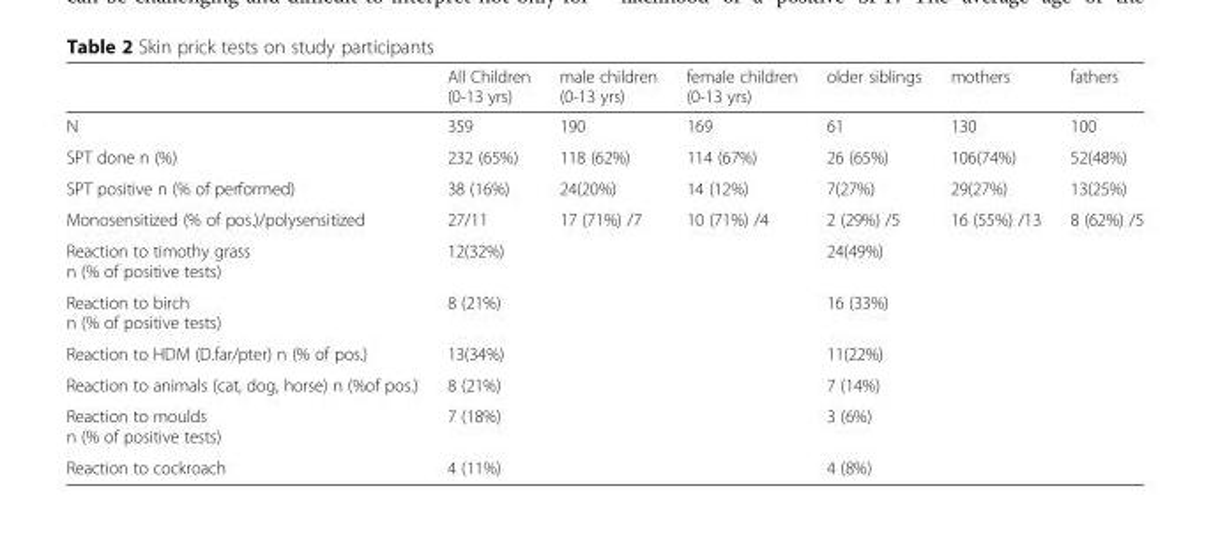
<table><thead><tr><td></td><td>All Children (0-13 yrs)</td><td>male children (0-13 yrs)</td><td>female children (0-13 yrs)</td><td>older siblings</td><td>mothers</td><td>fathers</td></tr></thead><tbody><tr><td>N</td><td>359</td><td>190</td><td>169</td><td>61</td><td>130</td><td>100</td></tr><tr><td>SPT done n (%)</td><td>232 (65%)</td><td>118 (62%)</td><td>114 (67%)</td><td>26 (65%)</td><td>106(74%)</td><td>52(48%)</td></tr><tr><td>SPT positive n (% of performed)</td><td>38 (16%)</td><td>24(20%)</td><td>14 (12%)</td><td>7(27%)</td><td>29(27%)</td><td>13(25%)</td></tr><tr><td>Monosensitized (% of pos.)/polysensitized</td><td>27/11</td><td>17 (71%) /7</td><td>10 (71%) /4</td><td>2 (29%) /5</td><td>16 (55%) /13</td><td>8 (62%) /5</td></tr><tr><td>Reaction to timothy grass n (% of positive tests)</td><td colspan="3">12(32%)</td><td colspan="3">24(49%)</td></tr><tr><td>Reaction to birch n (% of positive tests)</td><td colspan="3">8 (21%)</td><td colspan="3">16 (33%)</td></tr><tr><td>Reaction to HDM (D.far/pter) n (% of pos.)</td><td colspan="3">13(34%)</td><td colspan="3">11(22%)</td></tr><tr><td>Reaction to animals (cat, dog, horse) n (%of pos.)</td><td colspan="3">8 (21%)</td><td colspan="3">7 (14%)</td></tr><tr><td>Reaction to moulds n (% of positive tests)</td><td colspan="3">7 (18%)</td><td colspan="3">3 (6%)</td></tr><tr><td>Reaction to cockroach</td><td colspan="3">4 (11%)</td><td colspan="3">4 (8%)</td></tr></tbody></table>